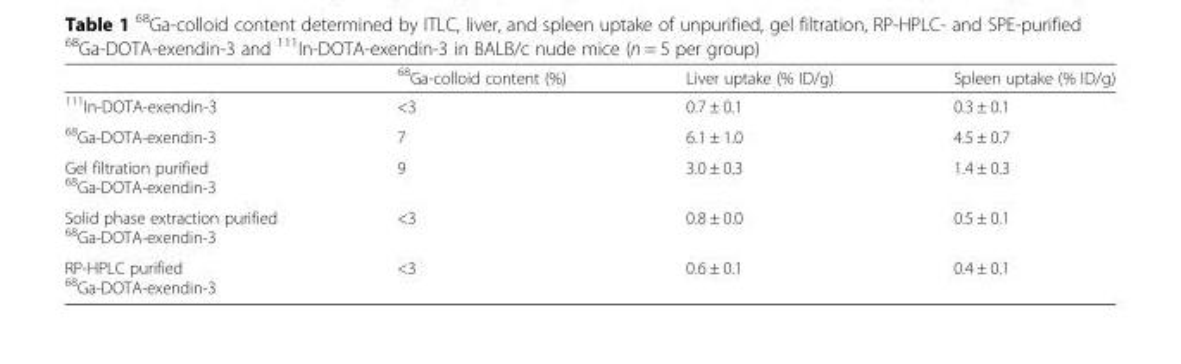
<table><thead><tr><td></td><td><sup>68</sup>Ga-colloid content (%)</td><td>Liver uptake (% ID/g)</td><td>Spleen uptake (% ID/g)</td></tr></thead><tbody><tr><td><sup>111</sup>In-DOTA-exendin-3</td><td>&lt;3</td><td>0.7 ± 0.1</td><td>0.3 ± 0.1</td></tr><tr><td><sup>68</sup>Ga-DOTA-exendin-3</td><td>7</td><td>6.1 ± 1.0</td><td>4.5 ± 0.7</td></tr><tr><td>Gel filtration purified <sup>68</sup>Ga-DOTA-exendin-3</td><td>9</td><td>3.0 ± 0.3</td><td>1.4 ± 0.3</td></tr><tr><td>Solid phase extraction purified <sup>68</sup>Ga-DOTA-exendin-3</td><td>&lt;3</td><td>0.8 ± 0.0</td><td>0.5 ± 0.1</td></tr><tr><td>RP-HPLC purified <sup>68</sup>Ga-DOTA-exendin-3</td><td>&lt;3</td><td>0.6 ± 0.1</td><td>0.4 ± 0.1</td></tr></tbody></table>